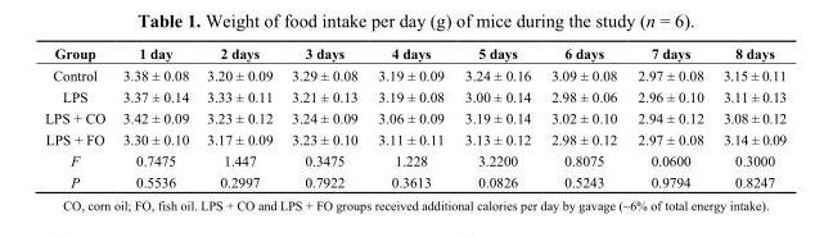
<table><thead><tr><td>Group</td><td>1 day</td><td>2 days</td><td>3 days</td><td>4 days</td><td>5 days</td><td>6 days</td><td>7 days</td><td>8 days</td></tr></thead><tbody><tr><td>Control</td><td>3.38 ± 0.08</td><td>3.20 ± 0.09</td><td>3.29 ± 0.08</td><td>3.19 ± 0.09</td><td>3.24 ± 0.16</td><td>3.09 ± 0.08</td><td>2.97 ± 0.08</td><td>3.15 ± 0.11</td></tr><tr><td>LPS</td><td>3.37 ± 0.14</td><td>3.33 ± 0.11</td><td>3.21 ± 0.13</td><td>3.19 ± 0.08</td><td>3.00 ± 0.14</td><td>2.98 ± 0.06</td><td>2.96 ± 0.10</td><td>3.11 ± 0.13</td></tr><tr><td>LPS + CO</td><td>3.42 ± 0.09</td><td>3.23 ± 0.12</td><td>3.24 ± 0.09</td><td>3.06 ± 0.09</td><td>3.19 ± 0.14</td><td>3.02 ± 0.10</td><td>2.94 ± 0.12</td><td>3.08 ± 0.12</td></tr><tr><td>LPS + FO</td><td>3.30 ± 0.10</td><td>3.17 ± 0.09</td><td>3.23 ± 0.10</td><td>3.11 ± 0.11</td><td>3.13 ± 0.12</td><td>2.98 ± 0.12</td><td>2.97 ± 0.08</td><td>3.14 ± 0.09</td></tr><tr><td>F</td><td>0.7475</td><td>1.447</td><td>0.3475</td><td>1.228</td><td>3.2200</td><td>0.8075</td><td>0.0600</td><td>0.3000</td></tr><tr><td>P</td><td>0.5536</td><td>0.2997</td><td>0.7922</td><td>0.3613</td><td>0.0826</td><td>0.5243</td><td>0.9794</td><td>0.8247</td></tr></tbody></table>